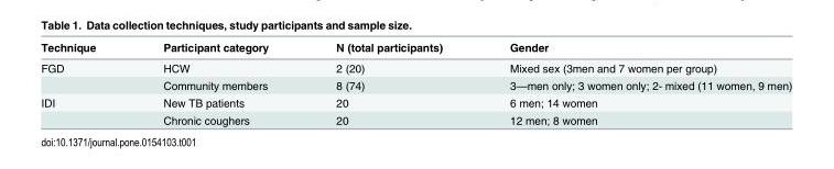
<table><thead><tr><td>Technique</td><td>Participant category</td><td>N (total participants)</td><td>Gender</td></tr></thead><tbody><tr><td rowspan="2">FGD</td><td>HCW</td><td>2 (20)</td><td>Mixed sex (3men and 7 women per group)</td></tr><tr><td>Community members</td><td>8 (74)</td><td>3—men only; 3 women only; 2- mixed (11 women, 9 men)</td></tr><tr><td rowspan="2">IDI</td><td>New TB patients</td><td>20</td><td>6 men; 14 women</td></tr><tr><td>Chronic coughers</td><td>20</td><td>12 men; 8 women</td></tr></tbody></table>